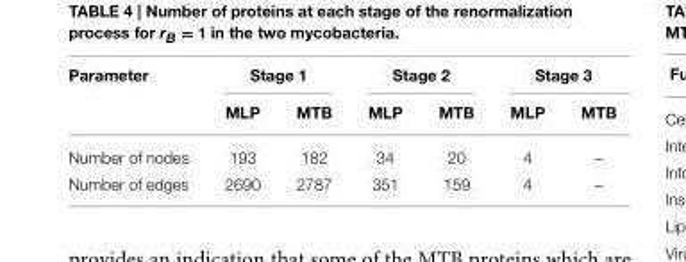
<table><thead><tr><td rowspan="2">Parameter</td><td colspan="2">Stage 1</td><td colspan="2">Stage 2</td><td colspan="2">Stage 3</td></tr><tr><td>MLP</td><td>MTB</td><td>MLP</td><td>MTB</td><td>MLP</td><td>MTB</td></tr></thead><tbody><tr><td>Number of nodes</td><td>193</td><td>182</td><td>34</td><td>20</td><td>4</td><td>–</td></tr><tr><td>Number of edges</td><td>2690</td><td>2787</td><td>351</td><td>159</td><td>4</td><td>–</td></tr></tbody></table>